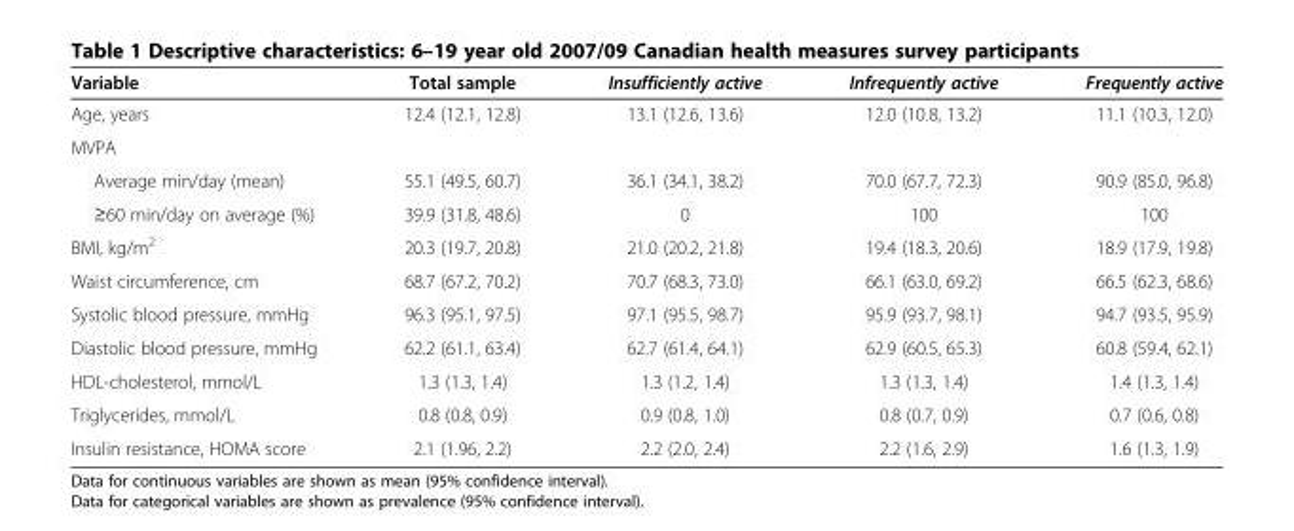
<table><thead><tr><td>Variable</td><td>Total sample</td><td>Insufficiently active</td><td>Infrequently active</td><td>Frequently active</td></tr></thead><tbody><tr><td>Age, years</td><td>12.4 (12.1, 12.8)</td><td>13.1 (12.6, 13.6)</td><td>12.0 (10.8, 13.2)</td><td>11.1 (10.3, 12.0)</td></tr><tr><td colspan="5">MVPA</td></tr><tr><td>Average min/day (mean)</td><td>55.1 (49.5, 60.7)</td><td>36.1 (34.1, 38.2)</td><td>70.0 (67.7, 72.3)</td><td>90.9 (85.0, 96.8)</td></tr><tr><td>≥60 min/day on average (%)</td><td>39.9 (31.8, 48.6)</td><td>0</td><td>100</td><td>100</td></tr><tr><td>BMI, kg/m<sup>2</sup></td><td>20.3 (19.7, 20.8)</td><td>21.0 (20.2, 21.8)</td><td>19.4 (18.3, 20.6)</td><td>18.9 (17.9, 19.8)</td></tr><tr><td>Waist circumference, cm</td><td>68.7 (67.2, 70.2)</td><td>70.7 (68.3, 73.0)</td><td>66.1 (63.0, 69.2)</td><td>66.5 (62.3, 68.6)</td></tr><tr><td>Systolic blood pressure, mmHg</td><td>96.3 (95.1, 97.5)</td><td>97.1 (95.5, 98.7)</td><td>95.9 (93.7, 98.1)</td><td>94.7 (93.5, 95.9)</td></tr><tr><td>Diastolic blood pressure, mmHg</td><td>62.2 (61.1, 63.4)</td><td>62.7 (61.4, 64.1)</td><td>62.9 (60.5, 65.3)</td><td>60.8 (59.4, 62.1)</td></tr><tr><td>HDL-cholesterol, mmol/L</td><td>1.3 (1.3, 1.4)</td><td>1.3 (1.2, 1.4)</td><td>1.3 (1.3, 1.4)</td><td>1.4 (1.3, 1.4)</td></tr><tr><td>Triglycerides, mmol/L</td><td>0.8 (0.8, 0.9)</td><td>0.9 (0.8, 1.0)</td><td>0.8 (0.7, 0.9)</td><td>0.7 (0.6, 0.8)</td></tr><tr><td>Insulin resistance, HOMA score</td><td>2.1 (1.96, 2.2)</td><td>2.2 (2.0, 2.4)</td><td>2.2 (1.6, 2.9)</td><td>1.6 (1.3, 1.9)</td></tr></tbody></table>